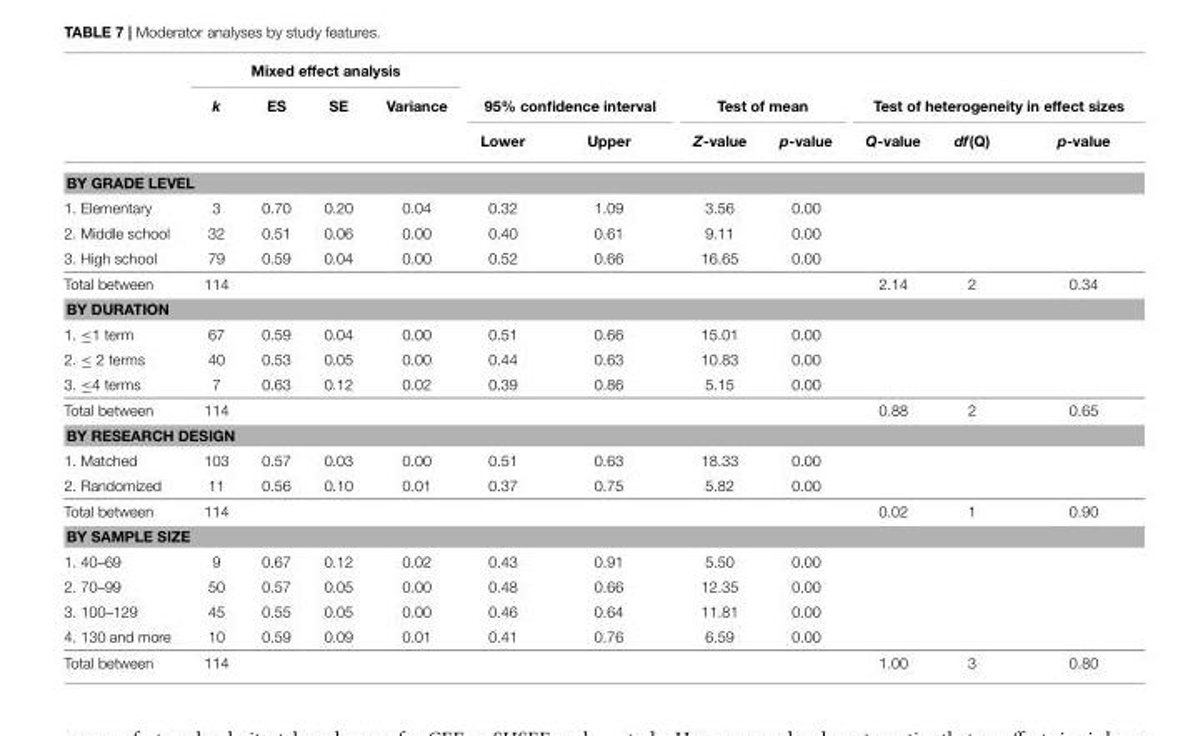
<table><thead><tr><td rowspan="3"></td><td colspan="4">Mixed effect analysis</td><td></td><td></td><td></td><td></td><td></td><td></td><td></td></tr><tr><td rowspan="2">k</td><td rowspan="2">ES</td><td rowspan="2">SE</td><td rowspan="2">Variance</td><td colspan="2">95% confidence interval</td><td colspan="2">Test of mean</td><td colspan="3">Test of heterogeneity in effect sizes</td></tr><tr><td>Lower</td><td>Upper</td><td>Z-value</td><td>p-value</td><td>Q-value</td><td>df(Q)</td><td>p-value</td></tr></thead><tbody><tr><td colspan="12">BY GRADE LEVEL</td></tr><tr><td>1. Elementary</td><td>3</td><td>0.70</td><td>0.20</td><td>0.04</td><td>0.32</td><td>1.09</td><td>3.56</td><td>0.00</td><td></td><td></td><td></td></tr><tr><td>2. Middle school</td><td>32</td><td>0.51</td><td>0.06</td><td>0.00</td><td>0.40</td><td>0.61</td><td>9.11</td><td>0.00</td><td></td><td></td><td></td></tr><tr><td>3. High school</td><td>79</td><td>0.59</td><td>0.04</td><td>0.00</td><td>0.52</td><td>0.66</td><td>16.65</td><td>0.00</td><td></td><td></td><td></td></tr><tr><td>Total between</td><td>114</td><td></td><td></td><td></td><td></td><td></td><td></td><td></td><td>2.14</td><td>2</td><td>0.34</td></tr><tr><td colspan="12">BY DURATION</td></tr><tr><td>1. ≤1 term</td><td>67</td><td>0.59</td><td>0.04</td><td>0.00</td><td>0.51</td><td>0.66</td><td>15.01</td><td>0.00</td><td></td><td></td><td></td></tr><tr><td>2. ≤ 2 terms</td><td>40</td><td>0.53</td><td>0.05</td><td>0.00</td><td>0.44</td><td>0.63</td><td>10.83</td><td>0.00</td><td></td><td></td><td></td></tr><tr><td>3. ≤4 terms</td><td>7</td><td>0.63</td><td>0.12</td><td>0.02</td><td>0.39</td><td>0.86</td><td>5.15</td><td>0.00</td><td></td><td></td><td></td></tr><tr><td>Total between</td><td>114</td><td></td><td></td><td></td><td></td><td></td><td></td><td></td><td>0.88</td><td>2</td><td>0.65</td></tr><tr><td colspan="12">BY RESEARCH DESIGN</td></tr><tr><td>1. Matched</td><td>103</td><td>0.57</td><td>0.03</td><td>0.00</td><td>0.51</td><td>0.63</td><td>18.33</td><td>0.00</td><td></td><td></td><td></td></tr><tr><td>2. Randomized</td><td>11</td><td>0.56</td><td>0.10</td><td>0.01</td><td>0.37</td><td>0.75</td><td>5.82</td><td>0.00</td><td></td><td></td><td></td></tr><tr><td>Total between</td><td>114</td><td></td><td></td><td></td><td></td><td></td><td></td><td></td><td>0.02</td><td>1</td><td>0.90</td></tr><tr><td colspan="12">BY SAMPLE SIZE</td></tr><tr><td>1. 40–69</td><td>9</td><td>0.67</td><td>0.12</td><td>0.02</td><td>0.43</td><td>0.91</td><td>5.50</td><td>0.00</td><td></td><td></td><td></td></tr><tr><td>2. 70–99</td><td>50</td><td>0.57</td><td>0.05</td><td>0.00</td><td>0.48</td><td>0.66</td><td>12.35</td><td>0.00</td><td></td><td></td><td></td></tr><tr><td>3. 100–129</td><td>45</td><td>0.55</td><td>0.05</td><td>0.00</td><td>0.46</td><td>0.64</td><td>11.81</td><td>0.00</td><td></td><td></td><td></td></tr><tr><td>4. 130 and more</td><td>10</td><td>0.59</td><td>0.09</td><td>0.01</td><td>0.41</td><td>0.76</td><td>6.59</td><td>0.00</td><td></td><td></td><td></td></tr><tr><td>Total between</td><td>114</td><td></td><td></td><td></td><td></td><td></td><td></td><td></td><td>1.00</td><td>3</td><td>0.80</td></tr></tbody></table>